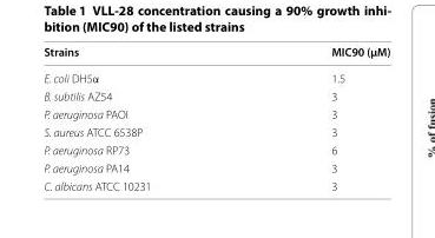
<table><thead><tr><td>Strains</td><td>MIC90 (µM)</td></tr></thead><tbody><tr><td>E. coli DH5α</td><td>1.5</td></tr><tr><td>B. subtilis AZ54</td><td>3</td></tr><tr><td>P. aeruginosa PAOI</td><td>3</td></tr><tr><td>S. aureus ATCC 6538P</td><td>3</td></tr><tr><td>P. aeruginosa RP73</td><td>6</td></tr><tr><td>P. aeruginosa PA14</td><td>3</td></tr><tr><td>C. albicans ATCC 10231</td><td>3</td></tr></tbody></table>